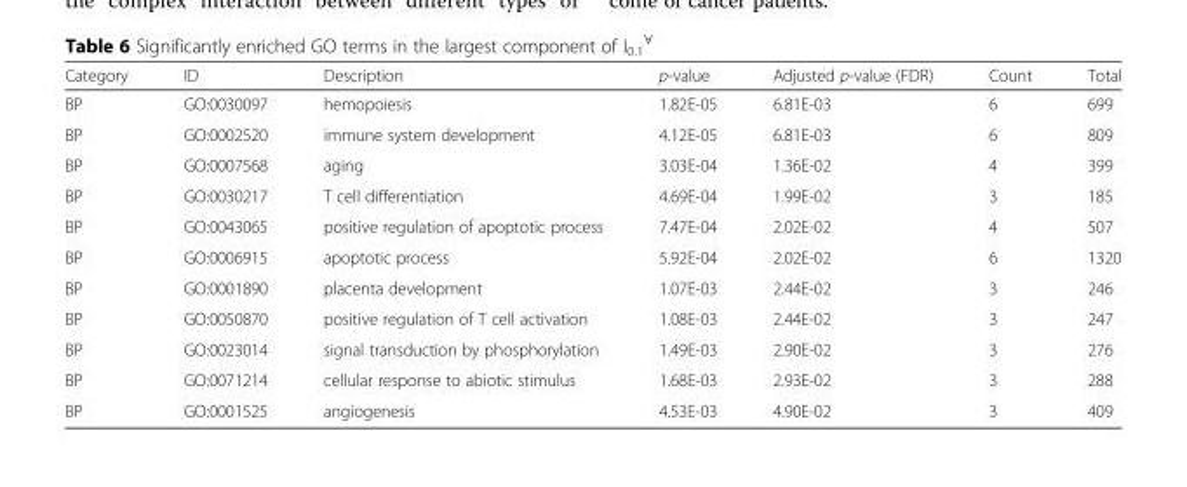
<table><thead><tr><td>Category</td><td>ID</td><td>Description</td><td>p-value</td><td>Adjusted p-value (FDR)</td><td>Count</td><td>Total</td></tr></thead><tbody><tr><td>BP</td><td>GO:0030097</td><td>hemopoiesis</td><td>1.82E-05</td><td>6.81E-03</td><td>6</td><td>699</td></tr><tr><td>BP</td><td>GO:0002520</td><td>immune system development</td><td>4.12E-05</td><td>6.81E-03</td><td>6</td><td>809</td></tr><tr><td>BP</td><td>GO:0007568</td><td>aging</td><td>3.03E-04</td><td>1.36E-02</td><td>4</td><td>399</td></tr><tr><td>BP</td><td>GO:0030217</td><td>T cell differentiation</td><td>4.69E-04</td><td>1.99E-02</td><td>3</td><td>185</td></tr><tr><td>BP</td><td>GO:0043065</td><td>positive regulation of apoptotic process</td><td>7.47E-04</td><td>2.02E-02</td><td>4</td><td>507</td></tr><tr><td>BP</td><td>GO:0006915</td><td>apoptotic process</td><td>5.92E-04</td><td>2.02E-02</td><td>6</td><td>1320</td></tr><tr><td>BP</td><td>GO:0001890</td><td>placenta development</td><td>1.07E-03</td><td>2.44E-02</td><td>3</td><td>246</td></tr><tr><td>BP</td><td>GO:0050870</td><td>positive regulation of T cell activation</td><td>1.08E-03</td><td>2.44E-02</td><td>3</td><td>247</td></tr><tr><td>BP</td><td>GO:0023014</td><td>signal transduction by phosphorylation</td><td>1.49E-03</td><td>2.90E-02</td><td>3</td><td>276</td></tr><tr><td>BP</td><td>GO:0071214</td><td>cellular response to abiotic stimulus</td><td>1.68E-03</td><td>2.93E-02</td><td>3</td><td>288</td></tr><tr><td>BP</td><td>GO:0001525</td><td>angiogenesis</td><td>4.53E-03</td><td>4.90E-02</td><td>3</td><td>409</td></tr></tbody></table>